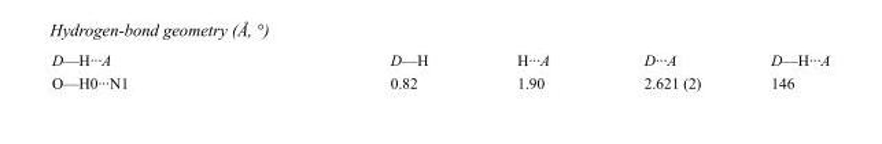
<table><tbody><tr><td>D—H···A</td><td>D—H</td><td>H···A</td><td>D···A</td><td>D—H···A</td></tr><tr><td>O—H0···N1</td><td>0.82</td><td>1.90</td><td>2.621 (2)</td><td>146</td></tr></tbody></table>